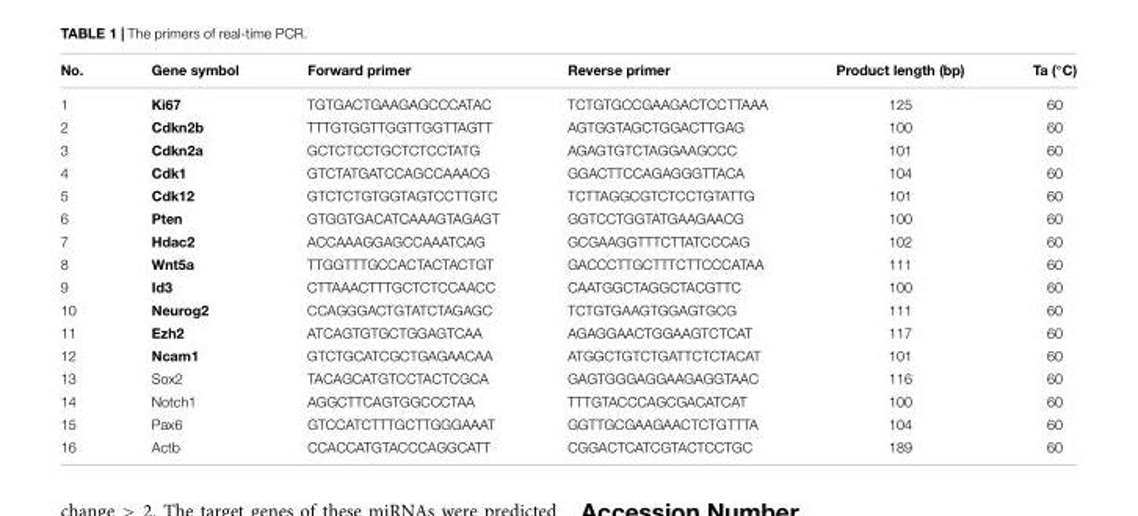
<table><thead><tr><td>No.</td><td>Gene symbol</td><td>Forward primer</td><td>Reverse primer</td><td>Product length (bp)</td><td>Ta (◦C)</td></tr></thead><tbody><tr><td>1</td><td>Ki67</td><td>TGTGACTGAAGAGCCCATAC</td><td>TCTGTGCCGAAGACTCCTTAAA</td><td>125</td><td>60</td></tr><tr><td>2</td><td>Cdkn2b</td><td>TTTGTGGTTGGTTGGTTAGTT</td><td>AGTGGTAGCTGGACTTGAG</td><td>100</td><td>60</td></tr><tr><td>3</td><td>Cdkn2a</td><td>GCTCTCCTGCTCTCCTATG</td><td>AGAGTGTCTAGGAAGCCC</td><td>101</td><td>60</td></tr><tr><td>4</td><td>Cdk1</td><td>GTCTATGATCCAGCCAAACG</td><td>GGACTTCCAGAGGGTTACA</td><td>104</td><td>60</td></tr><tr><td>5</td><td>Cdk12</td><td>GTCTCTGTGGTAGTCCTTGTC</td><td>TCTTAGGCGTCTCCTGTATTG</td><td>101</td><td>60</td></tr><tr><td>6</td><td>Pten</td><td>GTGGTGACATCAAAGTAGAGT</td><td>GGTCCTGGTATGAAGAACG</td><td>100</td><td>60</td></tr><tr><td>7</td><td>Hdac2</td><td>ACCAAAGGAGCCAAATCAG</td><td>GCGAAGGTTTCTTATCCCAG</td><td>102</td><td>60</td></tr><tr><td>8</td><td>Wnt5a</td><td>TTGGTTTGCCACTACTACTGT</td><td>GACCCTTGCTTTCTTCCCATAA</td><td>111</td><td>60</td></tr><tr><td>9</td><td>Id3</td><td>CTTAAACTTTGCTCTCCAACC</td><td>CAATGGCTAGGCTACGTTC</td><td>100</td><td>60</td></tr><tr><td>10</td><td>Neurog2</td><td>CCAGGGACTGTATCTAGAGC</td><td>TCTGTGAAGTGGAGTGCG</td><td>111</td><td>60</td></tr><tr><td>11</td><td>Ezh2</td><td>ATCAGTGTGCTGGAGTCAA</td><td>AGAGGAACTGGAAGTCTCAT</td><td>117</td><td>60</td></tr><tr><td>12</td><td>Ncam1</td><td>GTCTGCATCGCTGAGAACAA</td><td>ATGGCTGTCTGATTCTCTACAT</td><td>101</td><td>60</td></tr><tr><td>13</td><td>Sox2</td><td>TACAGCATGTCCTACTCGCA</td><td>GAGTGGGAGGAAGAGGTAAC</td><td>116</td><td>60</td></tr><tr><td>14</td><td>Notch1</td><td>AGGCTTCAGTGGCCCTAA</td><td>TTTGTACCCAGCGACATCAT</td><td>100</td><td>60</td></tr><tr><td>15</td><td>Pax6</td><td>GTCCATCTTTGCTTGGGAAAT</td><td>GGTTGCGAAGAACTCTGTTTA</td><td>104</td><td>60</td></tr><tr><td>16</td><td>Actb</td><td>CCACCATGTACCCAGGCATT</td><td>CGGACTCATCGTACTCCTGC</td><td>189</td><td>60</td></tr></tbody></table>